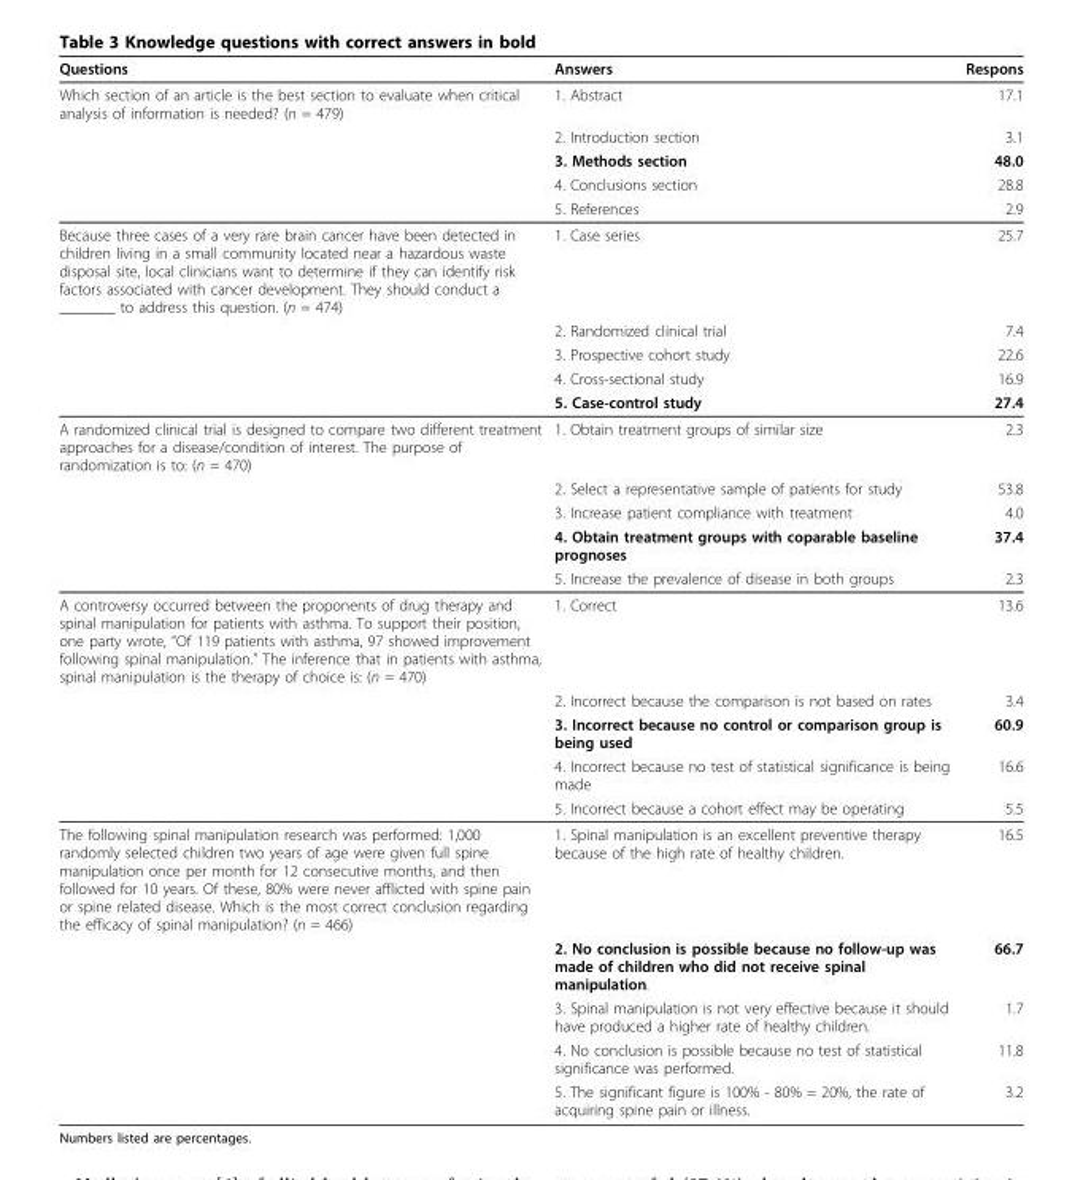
<table><thead><tr><td>Questions</td><td>Answers</td><td>Respons</td></tr></thead><tbody><tr><td rowspan="5">Which section of an article is the best section to evaluate when critical analysis of information is needed? (n = 479)</td><td>1. Abstract</td><td>17.1</td></tr><tr><td>2. Introduction section</td><td>3.1</td></tr><tr><td>3. Methods section</td><td>48.0</td></tr><tr><td>4. Conclusions section</td><td>28.8</td></tr><tr><td>5. References</td><td>2.9</td></tr><tr><td rowspan="5">Because three cases of a very rare brain cancer have been detected in children living in a small community located near a hazardous waste disposal site, local clinicians want to determine if they can identify risk factors associated with cancer development. They should conduct a _______ to address this question. (n = 474)</td><td>1. Case series</td><td>25.7</td></tr><tr><td>2. Randomized clinical trial</td><td>7.4</td></tr><tr><td>3. Prospective cohort study</td><td>22.6</td></tr><tr><td>4. Cross-sectional study</td><td>16.9</td></tr><tr><td>5. Case-control study</td><td>27.4</td></tr><tr><td rowspan="5">A randomized clinical trial is designed to compare two different treatment approaches for a disease/condition of interest. The purpose of randomization is to: (n = 470)</td><td>1. Obtain treatment groups of similar size</td><td>2.3</td></tr><tr><td>2. Select a representative sample of patients for study</td><td>53.8</td></tr><tr><td>3. Increase patient compliance with treatment</td><td>4.0</td></tr><tr><td>4. Obtain treatment groups with coparable baseline prognoses</td><td>37.4</td></tr><tr><td>5. Increase the prevalence of disease in both groups</td><td>2.3</td></tr><tr><td rowspan="5">A controversy occurred between the proponents of drug therapy and spinal manipulation for patients with asthma. To support their position, one party wrote, “Of 119 patients with asthma, 97 showed improvement following spinal manipulation.” The inference that in patients with asthma, spinal manipulation is the therapy of choice is: (n = 470)</td><td>1. Correct</td><td>13.6</td></tr><tr><td>2. Incorrect because the comparison is not based on rates</td><td>3.4</td></tr><tr><td>3. Incorrect because no control or comparison group is being used</td><td>60.9</td></tr><tr><td>4. Incorrect because no test of statistical significance is being made</td><td>16.6</td></tr><tr><td>5. Incorrect because a cohort effect may be operating</td><td>5.5</td></tr><tr><td rowspan="5">The following spinal manipulation research was performed: 1,000 randomly selected children two years of age were given full spine manipulation once per month for 12 consecutive months, and then followed for 10 years. Of these, 80% were never afflicted with spine pain or spine related disease. Which is the most correct conclusion regarding the efficacy of spinal manipulation? (n = 466)</td><td>1. Spinal manipulation is an excellent preventive therapy because of the high rate of healthy children.</td><td>16.5</td></tr><tr><td>2. No conclusion is possible because no follow-up was made of children who did not receive spinal manipulation.</td><td>66.7</td></tr><tr><td>3. Spinal manipulation is not very effective because it should have produced a higher rate of healthy children.</td><td>1.7</td></tr><tr><td>4. No conclusion is possible because no test of statistical significance was performed.</td><td>11.8</td></tr><tr><td>5. The significant figure is 100% - 80% = 20%, the rate of acquiring spine pain or illness.</td><td>3.2</td></tr></tbody></table>